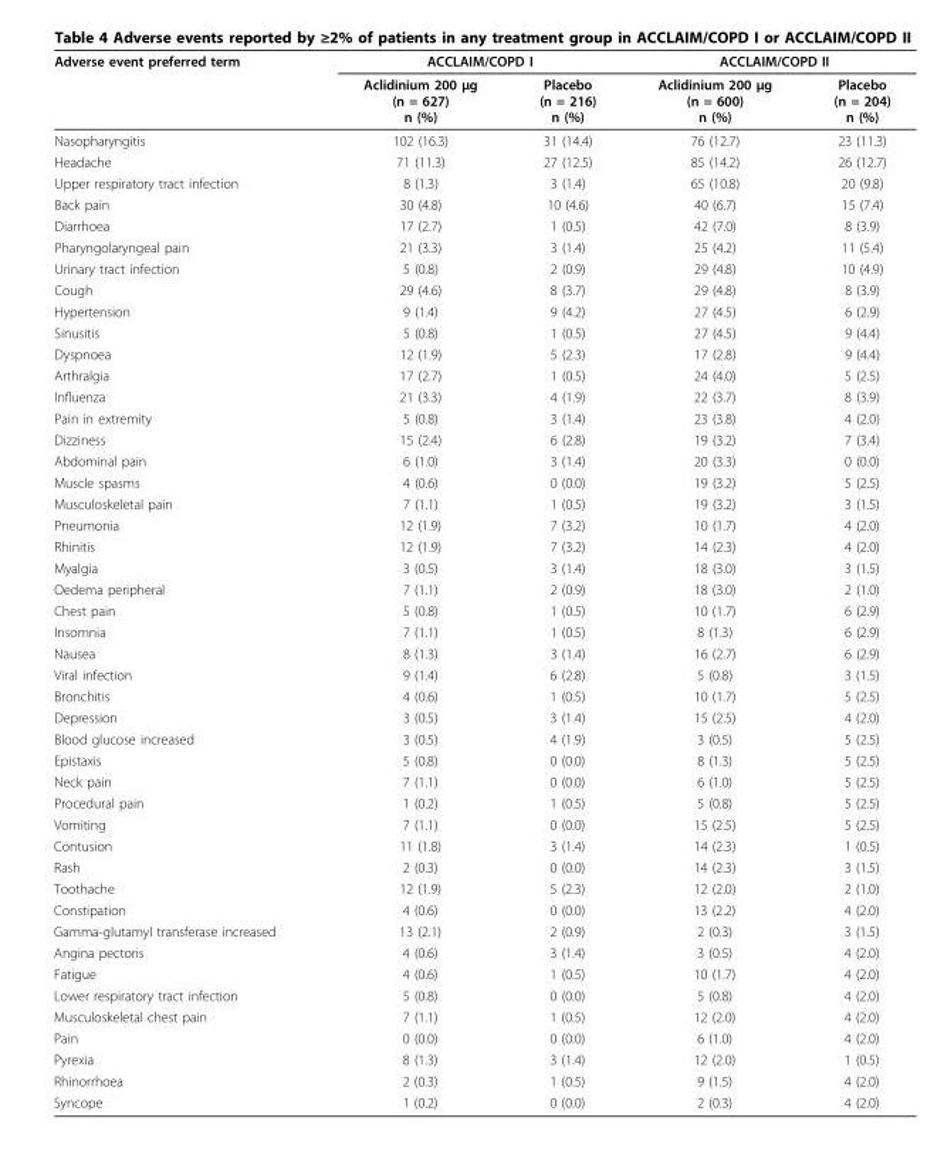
<table><thead><tr><td rowspan="2">Adverse event preferred term</td><td colspan="2">ACCLAIM/COPD I</td><td colspan="2">ACCLAIM/COPD II</td></tr><tr><td>Aclidinium 200 μg (n = 627) n (%)</td><td>Placebo (n = 216) n (%)</td><td>Aclidinium 200 μg (n = 600) n (%)</td><td>Placebo (n = 204) n (%)</td></tr></thead><tbody><tr><td>Nasopharyngitis</td><td>102 (16.3)</td><td>31 (14.4)</td><td>76 (12.7)</td><td>23 (11.3)</td></tr><tr><td>Headache</td><td>71 (11.3)</td><td>27 (12.5)</td><td>85 (14.2)</td><td>26 (12.7)</td></tr><tr><td>Upper respiratory tract infection</td><td>8 (1.3)</td><td>3 (1.4)</td><td>65 (10.8)</td><td>20 (9.8)</td></tr><tr><td>Back pain</td><td>30 (4.8)</td><td>10 (4.6)</td><td>40 (6.7)</td><td>15 (7.4)</td></tr><tr><td>Diarrhoea</td><td>17 (2.7)</td><td>1 (0.5)</td><td>42 (7.0)</td><td>8 (3.9)</td></tr><tr><td>Pharyngolaryngeal pain</td><td>21 (3.3)</td><td>3 (1.4)</td><td>25 (4.2)</td><td>11 (5.4)</td></tr><tr><td>Urinary tract infection</td><td>5 (0.8)</td><td>2 (0.9)</td><td>29 (4.8)</td><td>10 (4.9)</td></tr><tr><td>Cough</td><td>29 (4.6)</td><td>8 (3.7)</td><td>29 (4.8)</td><td>8 (3.9)</td></tr><tr><td>Hypertension</td><td>9 (1.4)</td><td>9 (4.2)</td><td>27 (4.5)</td><td>6 (2.9)</td></tr><tr><td>Sinusitis</td><td>5 (0.8)</td><td>1 (0.5)</td><td>27 (4.5)</td><td>9 (4.4)</td></tr><tr><td>Dyspnoea</td><td>12 (1.9)</td><td>5 (2.3)</td><td>17 (2.8)</td><td>9 (4.4)</td></tr><tr><td>Arthralgia</td><td>17 (2.7)</td><td>1 (0.5)</td><td>24 (4.0)</td><td>5 (2.5)</td></tr><tr><td>Influenza</td><td>21 (3.3)</td><td>4 (1.9)</td><td>22 (3.7)</td><td>8 (3.9)</td></tr><tr><td>Pain in extremity</td><td>5 (0.8)</td><td>3 (1.4)</td><td>23 (3.8)</td><td>4 (2.0)</td></tr><tr><td>Dizziness</td><td>15 (2.4)</td><td>6 (2.8)</td><td>19 (3.2)</td><td>7 (3.4)</td></tr><tr><td>Abdominal pain</td><td>6 (1.0)</td><td>3 (1.4)</td><td>20 (3.3)</td><td>0 (0.0)</td></tr><tr><td>Muscle spasms</td><td>4 (0.6)</td><td>0 (0.0)</td><td>19 (3.2)</td><td>5 (2.5)</td></tr><tr><td>Musculoskeletal pain</td><td>7 (1.1)</td><td>1 (0.5)</td><td>19 (3.2)</td><td>3 (1.5)</td></tr><tr><td>Pneumonia</td><td>12 (1.9)</td><td>7 (3.2)</td><td>10 (1.7)</td><td>4 (2.0)</td></tr><tr><td>Rhinitis</td><td>12 (1.9)</td><td>7 (3.2)</td><td>14 (2.3)</td><td>4 (2.0)</td></tr><tr><td>Myalgia</td><td>3 (0.5)</td><td>3 (1.4)</td><td>18 (3.0)</td><td>3 (1.5)</td></tr><tr><td>Oedema peripheral</td><td>7 (1.1)</td><td>2 (0.9)</td><td>18 (3.0)</td><td>2 (1.0)</td></tr><tr><td>Chest pain</td><td>5 (0.8)</td><td>1 (0.5)</td><td>10 (1.7)</td><td>6 (2.9)</td></tr><tr><td>Insomnia</td><td>7 (1.1)</td><td>1 (0.5)</td><td>8 (1.3)</td><td>6 (2.9)</td></tr><tr><td>Nausea</td><td>8 (1.3)</td><td>3 (1.4)</td><td>16 (2.7)</td><td>6 (2.9)</td></tr><tr><td>Viral infection</td><td>9 (1.4)</td><td>6 (2.8)</td><td>5 (0.8)</td><td>3 (1.5)</td></tr><tr><td>Bronchitis</td><td>4 (0.6)</td><td>1 (0.5)</td><td>10 (1.7)</td><td>5 (2.5)</td></tr><tr><td>Depression</td><td>3 (0.5)</td><td>3 (1.4)</td><td>15 (2.5)</td><td>4 (2.0)</td></tr><tr><td>Blood glucose increased</td><td>3 (0.5)</td><td>4 (1.9)</td><td>3 (0.5)</td><td>5 (2.5)</td></tr><tr><td>Epistaxis</td><td>5 (0.8)</td><td>0 (0.0)</td><td>8 (1.3)</td><td>5 (2.5)</td></tr><tr><td>Neck pain</td><td>7 (1.1)</td><td>0 (0.0)</td><td>6 (1.0)</td><td>5 (2.5)</td></tr><tr><td>Procedural pain</td><td>1 (0.2)</td><td>1 (0.5)</td><td>5 (0.8)</td><td>5 (2.5)</td></tr><tr><td>Vomiting</td><td>7 (1.1)</td><td>0 (0.0)</td><td>15 (2.5)</td><td>5 (2.5)</td></tr><tr><td>Contusion</td><td>11 (1.8)</td><td>3 (1.4)</td><td>14 (2.3)</td><td>1 (0.5)</td></tr><tr><td>Rash</td><td>2 (0.3)</td><td>0 (0.0)</td><td>14 (2.3)</td><td>3 (1.5)</td></tr><tr><td>Toothache</td><td>12 (1.9)</td><td>5 (2.3)</td><td>12 (2.0)</td><td>2 (1.0)</td></tr><tr><td>Constipation</td><td>4 (0.6)</td><td>0 (0.0)</td><td>13 (2.2)</td><td>4 (2.0)</td></tr><tr><td>Gamma-glutamyl transferase increased</td><td>13 (2.1)</td><td>2 (0.9)</td><td>2 (0.3)</td><td>3 (1.5)</td></tr><tr><td>Angina pectoris</td><td>4 (0.6)</td><td>3 (1.4)</td><td>3 (0.5)</td><td>4 (2.0)</td></tr><tr><td>Fatigue</td><td>4 (0.6)</td><td>1 (0.5)</td><td>10 (1.7)</td><td>4 (2.0)</td></tr><tr><td>Lower respiratory tract infection</td><td>5 (0.8)</td><td>0 (0.0)</td><td>5 (0.8)</td><td>4 (2.0)</td></tr><tr><td>Musculoskeletal chest pain</td><td>7 (1.1)</td><td>1 (0.5)</td><td>12 (2.0)</td><td>4 (2.0)</td></tr><tr><td>Pain</td><td>0 (0.0)</td><td>0 (0.0)</td><td>6 (1.0)</td><td>4 (2.0)</td></tr><tr><td>Pyrexia</td><td>8 (1.3)</td><td>3 (1.4)</td><td>12 (2.0)</td><td>1 (0.5)</td></tr><tr><td>Rhinorrhoea</td><td>2 (0.3)</td><td>1 (0.5)</td><td>9 (1.5)</td><td>4 (2.0)</td></tr><tr><td>Syncope</td><td>1 (0.2)</td><td>0 (0.0)</td><td>2 (0.3)</td><td>4 (2.0)</td></tr></tbody></table>